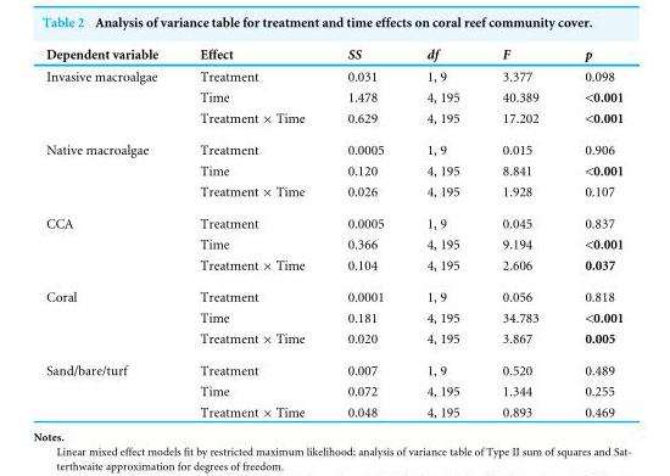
<table><thead><tr><td>Dependent variable</td><td>Effect</td><td>SS</td><td>df</td><td>F</td><td>p</td></tr></thead><tbody><tr><td rowspan="3">Invasive macroalgae</td><td>Treatment</td><td>0.031</td><td>1, 9</td><td>3.377</td><td>0.098</td></tr><tr><td>Time</td><td>1.478</td><td>4, 195</td><td>40.389</td><td>&lt;0.001</td></tr><tr><td>Treatment × Time</td><td>0.629</td><td>4, 195</td><td>17.202</td><td>&lt;0.001</td></tr><tr><td rowspan="3">Native macroalgae</td><td>Treatment</td><td>0.0005</td><td>1, 9</td><td>0.015</td><td>0.906</td></tr><tr><td>Time</td><td>0.120</td><td>4, 195</td><td>8.841</td><td>&lt;0.001</td></tr><tr><td>Treatment × Time</td><td>0.026</td><td>4, 195</td><td>1.928</td><td>0.107</td></tr><tr><td rowspan="3">CCA</td><td>Treatment</td><td>0.0005</td><td>1, 9</td><td>0.045</td><td>0.837</td></tr><tr><td>Time</td><td>0.366</td><td>4, 195</td><td>9.194</td><td>&lt;0.001</td></tr><tr><td>Treatment × Time</td><td>0.104</td><td>4, 195</td><td>2.606</td><td>0.037</td></tr><tr><td rowspan="3">Coral</td><td>Treatment</td><td>0.0001</td><td>1, 9</td><td>0.056</td><td>0.818</td></tr><tr><td>Time</td><td>0.181</td><td>4, 195</td><td>34.783</td><td>&lt;0.001</td></tr><tr><td>Treatment × Time</td><td>0.020</td><td>4, 195</td><td>3.867</td><td>0.005</td></tr><tr><td rowspan="3">Sand/bare/turf</td><td>Treatment</td><td>0.007</td><td>1, 9</td><td>0.520</td><td>0.489</td></tr><tr><td>Time</td><td>0.072</td><td>4, 195</td><td>1.344</td><td>0.255</td></tr><tr><td>Treatment × Time</td><td>0.048</td><td>4, 195</td><td>0.893</td><td>0.469</td></tr></tbody></table>